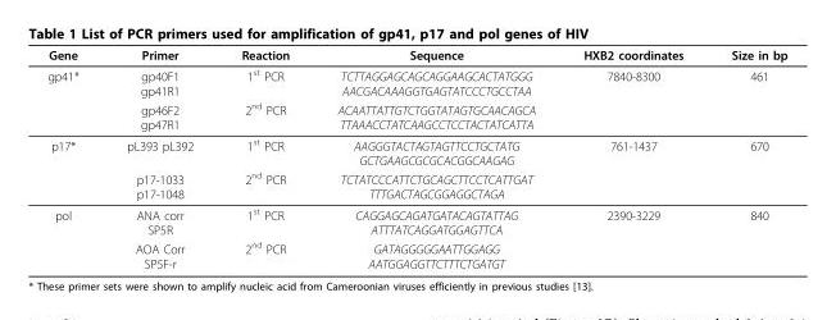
<table><thead><tr><td>Gene</td><td>Primer</td><td>Reaction</td><td>Sequence</td><td>HXB2 coordinates</td><td>Size in bp</td></tr></thead><tbody><tr><td rowspan="2">gp41*</td><td>gp40F1 gp41R1</td><td>1<sup>st</sup> PCR</td><td>TCTTAGGAGCAGCAGGAAGCACTATGGG AACGACAAAGGTGAGTATCCCTGCCTAA</td><td>7840-8300</td><td>461</td></tr><tr><td>gp46F2 gp47R1</td><td>2<sup>nd</sup> PCR</td><td>ACAATTATTGTCTGGTATAGTGCAACAGCA TTAAACCTATCAAGCCTCCTACTATCATTA</td><td></td><td></td></tr><tr><td rowspan="2">p17*</td><td>pL393 pL392</td><td>1<sup>st</sup> PCR</td><td>AAGGGTACTAGTAGTTCCTGCTATG GCTGAAGCGCGCACGGCAAGAG</td><td>761-1437</td><td>670</td></tr><tr><td>p17-1033 p17-1048</td><td>2<sup>nd</sup> PCR</td><td>TCTATCCCATTCTGCAGCTTCCTCATTGAT TTTGACTAGCGGAGGCTAGA</td><td></td><td></td></tr><tr><td rowspan="2">pol</td><td>ANA corr SP5R</td><td>1<sup>st</sup> PCR</td><td>CAGGAGCAGATGATACAGTATTAG ATTTATCAGGATGGAGTTCA</td><td>2390-3229</td><td>840</td></tr><tr><td>AOA Corr SP5F-r</td><td>2<sup>nd</sup> PCR</td><td>GATAGGGGGAATTGGAGG AATGGAGGTTCTTTCTGATGT</td><td></td><td></td></tr></tbody></table>